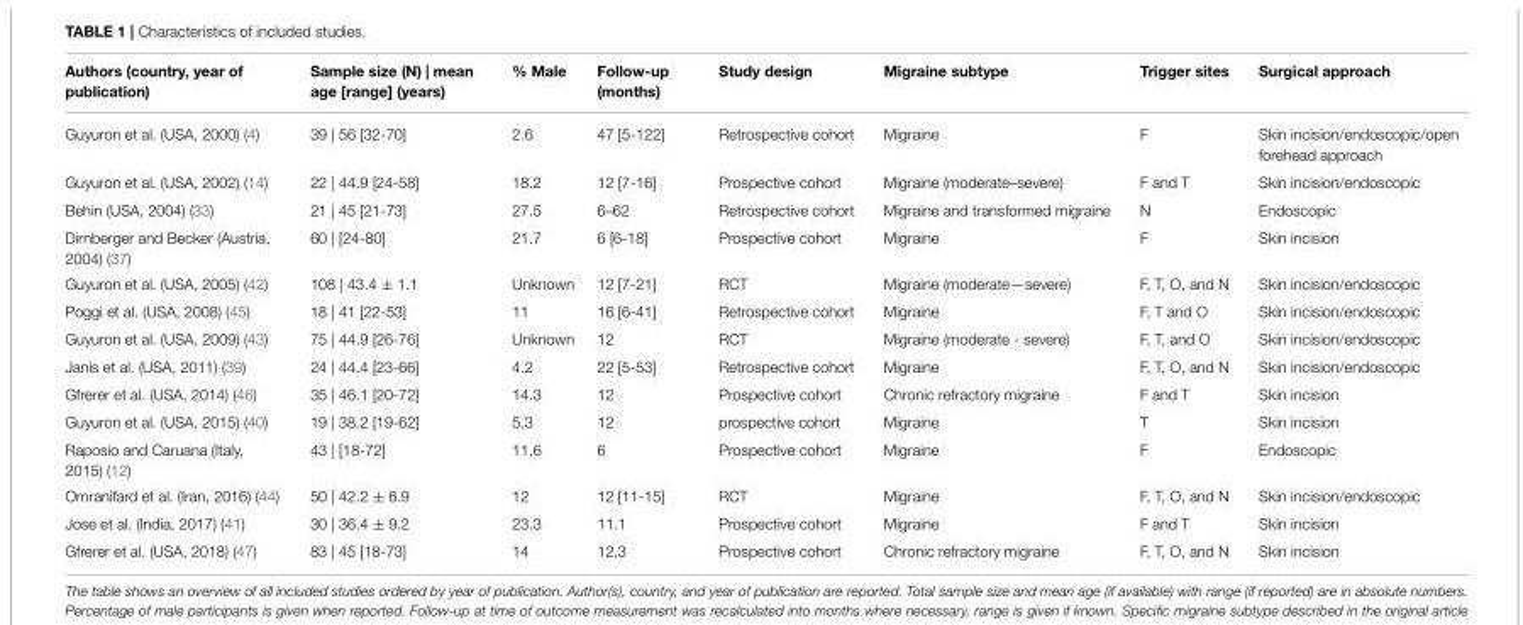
<table><thead><tr><td>Authors (country, year of publication)</td><td>Sample size (N) | mean age [range] (years)</td><td>% Male</td><td>Follow-up (months)</td><td>Study design</td><td>Migraine subtype</td><td>Trigger sites</td><td>Surgical approach</td></tr></thead><tbody><tr><td>Guyuron et al. (USA, 2000) (4)</td><td>39 | 56 [32-70]</td><td>2.6</td><td>47 [5-122]</td><td>Retrospective cohort</td><td>Migraine</td><td>F</td><td>Skin incision/endoscopic/open forehead approach</td></tr><tr><td>Guyuron et al. (USA, 2002) (14)</td><td>22 | 44.9 [24-58]</td><td>18.2</td><td>12 [7-16]</td><td>Prospective cohort</td><td>Migraine (moderate–severe)</td><td>F and T</td><td>Skin incision/endoscopic</td></tr><tr><td>Behin (USA, 2004) (33)</td><td>21 | 45 [21-73]</td><td>27.5</td><td>6–62</td><td>Retrospective cohort</td><td>Migraine and transformed migraine</td><td>N</td><td>Endoscopic</td></tr><tr><td>Dirnberger and Becker (Austria, 2004) (37)</td><td>60 | [24-80]</td><td>21.7</td><td>6 [6-18]</td><td>Prospective cohort</td><td>Migraine</td><td>F</td><td>Skin incision</td></tr><tr><td>Guyuron et al. (USA, 2005) (42)</td><td>108 | 43.4 ± 1.1</td><td>Unknown</td><td>12 [7-21]</td><td>RCT</td><td>Migraine (moderate—severe)</td><td>F, T, O, and N</td><td>Skin incision/endoscopic</td></tr><tr><td>Poggi et al. (USA, 2008) (45)</td><td>18 | 41 [22-53]</td><td>11</td><td>16 [6-41]</td><td>Retrospective cohort</td><td>Migraine</td><td>F, T and O</td><td>Skin incision/endoscopic</td></tr><tr><td>Guyuron et al. (USA, 2009) (43)</td><td>75 | 44.9 [26-76]</td><td>Unknown</td><td>12</td><td>RCT</td><td>Migraine (moderate - severe)</td><td>F, T, and O</td><td>Skin incision/endoscopic</td></tr><tr><td>Janis et al. (USA, 2011) (39)</td><td>24 | 44.4 [23-66]</td><td>4.2</td><td>22 [5-53]</td><td>Retrospective cohort</td><td>Migraine</td><td>F, T, O, and N</td><td>Skin incision/endoscopic</td></tr><tr><td>Gfrerer et al. (USA, 2014) (46)</td><td>35 | 46.1 [20-72]</td><td>14.3</td><td>12</td><td>Prospective cohort</td><td>Chronic refractory migraine</td><td>F and T</td><td>Skin incision</td></tr><tr><td>Guyuron et al. (USA, 2015) (40)</td><td>19 | 38.2 [19-62]</td><td>5.3</td><td>12</td><td>prospective cohort</td><td>Migraine</td><td>T</td><td>Skin incision</td></tr><tr><td>Raposio and Caruana (Italy, 2015) (12)</td><td>43 | [18-72]</td><td>11.6</td><td>6</td><td>Prospective cohort</td><td>Migraine</td><td>F</td><td>Endoscopic</td></tr><tr><td>Omranifard et al. (Iran, 2016) (44)</td><td>50 | 42.2 ± 6.9</td><td>12</td><td>12 [11-15]</td><td>RCT</td><td>Migraine</td><td>F, T, O, and N</td><td>Skin incision/endoscopic</td></tr><tr><td>Jose et al. (India, 2017) (41)</td><td>30 | 36.4 ± 9.2</td><td>23.3</td><td>11.1</td><td>Prospective cohort</td><td>Migraine</td><td>F and T</td><td>Skin incision</td></tr><tr><td>Gfrerer et al. (USA, 2018) (47)</td><td>83 | 45 [18-73]</td><td>14</td><td>12.3</td><td>Prospective cohort</td><td>Chronic refractory migraine</td><td>F, T, O, and N</td><td>Skin incision</td></tr></tbody></table>